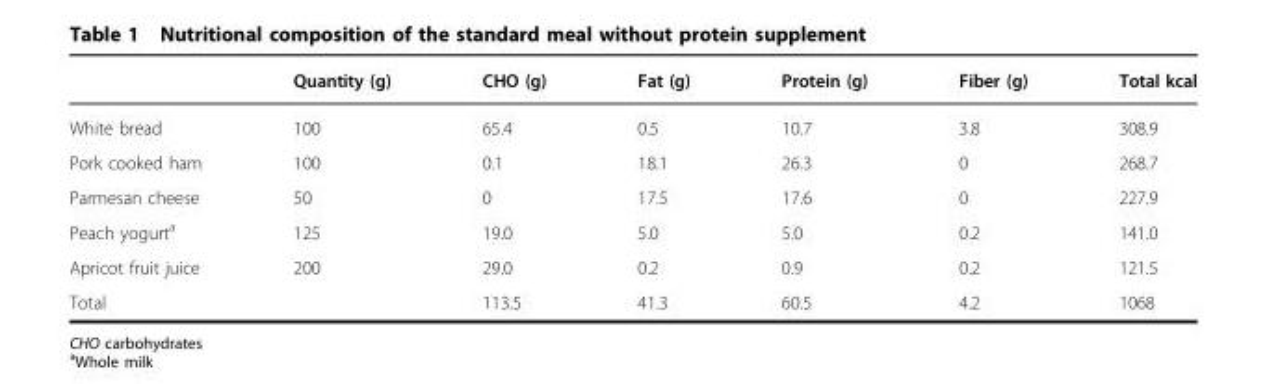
<table><thead><tr><td></td><td>Quantity (g)</td><td>CHO (g)</td><td>Fat (g)</td><td>Protein (g)</td><td>Fiber (g)</td><td>Total kcal</td></tr></thead><tbody><tr><td>White bread</td><td>100</td><td>65.4</td><td>0.5</td><td>10.7</td><td>3.8</td><td>308.9</td></tr><tr><td>Pork cooked ham</td><td>100</td><td>0.1</td><td>18.1</td><td>26.3</td><td>0</td><td>268.7</td></tr><tr><td>Parmesan cheese</td><td>50</td><td>0</td><td>17.5</td><td>17.6</td><td>0</td><td>227.9</td></tr><tr><td>Peach yogurt<sup>a</sup></td><td>125</td><td>19.0</td><td>5.0</td><td>5.0</td><td>0.2</td><td>141.0</td></tr><tr><td>Apricot fruit juice</td><td>200</td><td>29.0</td><td>0.2</td><td>0.9</td><td>0.2</td><td>121.5</td></tr><tr><td>Total</td><td></td><td>113.5</td><td>41.3</td><td>60.5</td><td>4.2</td><td>1068</td></tr></tbody></table>